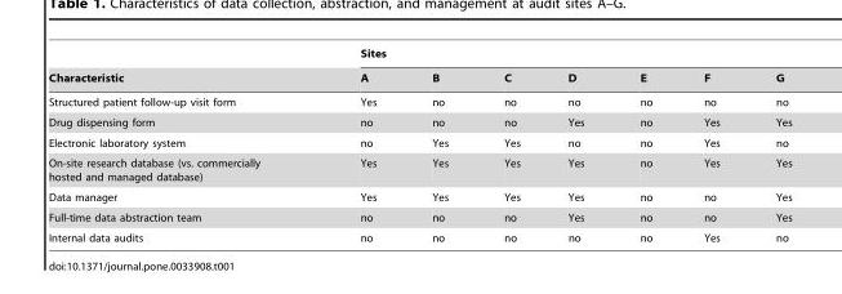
<table><thead><tr><td rowspan="2">Characteristic</td><td colspan="7">Sites</td></tr><tr><td>A</td><td>B</td><td>C</td><td>D</td><td>E</td><td>F</td><td>G</td></tr></thead><tbody><tr><td>Structured patient follow-up visit form</td><td>Yes</td><td>no</td><td>no</td><td>no</td><td>no</td><td>no</td><td>no</td></tr><tr><td>Drug dispensing form</td><td>no</td><td>no</td><td>no</td><td>Yes</td><td>no</td><td>Yes</td><td>Yes</td></tr><tr><td>Electronic laboratory system</td><td>no</td><td>Yes</td><td>Yes</td><td>no</td><td>no</td><td>Yes</td><td>no</td></tr><tr><td>On-site research database (vs. commercially hosted and managed database)</td><td>Yes</td><td>Yes</td><td>Yes</td><td>Yes</td><td>no</td><td>Yes</td><td>Yes</td></tr><tr><td>Data manager</td><td>Yes</td><td>Yes</td><td>Yes</td><td>Yes</td><td>no</td><td>no</td><td>Yes</td></tr><tr><td>Full-time data abstraction team</td><td>no</td><td>no</td><td>no</td><td>Yes</td><td>no</td><td>no</td><td>Yes</td></tr><tr><td>Internal data audits</td><td>no</td><td>no</td><td>no</td><td>no</td><td>no</td><td>Yes</td><td>no</td></tr></tbody></table>